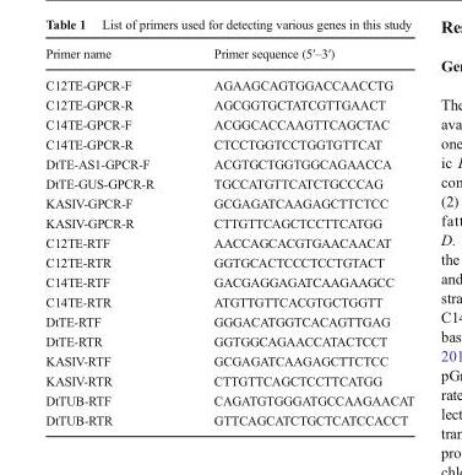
<table><thead><tr><td>Primer name</td><td>Primer sequence (5′–3′)</td></tr></thead><tbody><tr><td>C12TE-GPCR-F</td><td>AGAAGCAGTGGACCAACCTG</td></tr><tr><td>C12TE-GPCR-R</td><td>AGCGGTGCTATCGTTGAACT</td></tr><tr><td>C14TE-GPCR-F</td><td>ACGGCACCAAGTTCAGCTAC</td></tr><tr><td>C14TE-GPCR-R</td><td>CTCCTGGTCCTGGTGTTCAT</td></tr><tr><td>DtTE-AS1-GPCR-F</td><td>ACGTGCTGGTGGCAGAACCA</td></tr><tr><td>DtTE-GUS-GPCR-R</td><td>TGCCATGTTCATCTGCCCAG</td></tr><tr><td>KASIV-GPCR-F</td><td>GCGAGATCAAGAGCTTCTCC</td></tr><tr><td>KASIV-GPCR-R</td><td>CTTGTTCAGCTCCTTCATGG</td></tr><tr><td>C12TE-RTF</td><td>AACCAGCACGTGAACAACAT</td></tr><tr><td>C12TE-RTR</td><td>GGTGCACTCCCTCCTGTACT</td></tr><tr><td>C14TE-RTF</td><td>GACGAGGAGATCAAGAAGCC</td></tr><tr><td>C14TE-RTR</td><td>ATGTTGTTCACGTGCTGGTT</td></tr><tr><td>DtTE-RTF</td><td>GGGACATGGTCACAGTTGAG</td></tr><tr><td>DtTE-RTR</td><td>GGTGGCAGAACCATACTCCT</td></tr><tr><td>KASIV-RTF</td><td>GCGAGATCAAGAGCTTCTCC</td></tr><tr><td>KASIV-RTR</td><td>CTTGTTCAGCTCCTTCATGG</td></tr><tr><td>DtTUB-RTF</td><td>CAGATGTGGGATGCCAAGAACAT</td></tr><tr><td>DtTUB-RTR</td><td>GTTCAGCATCTGCTCATCCACCT</td></tr></tbody></table>